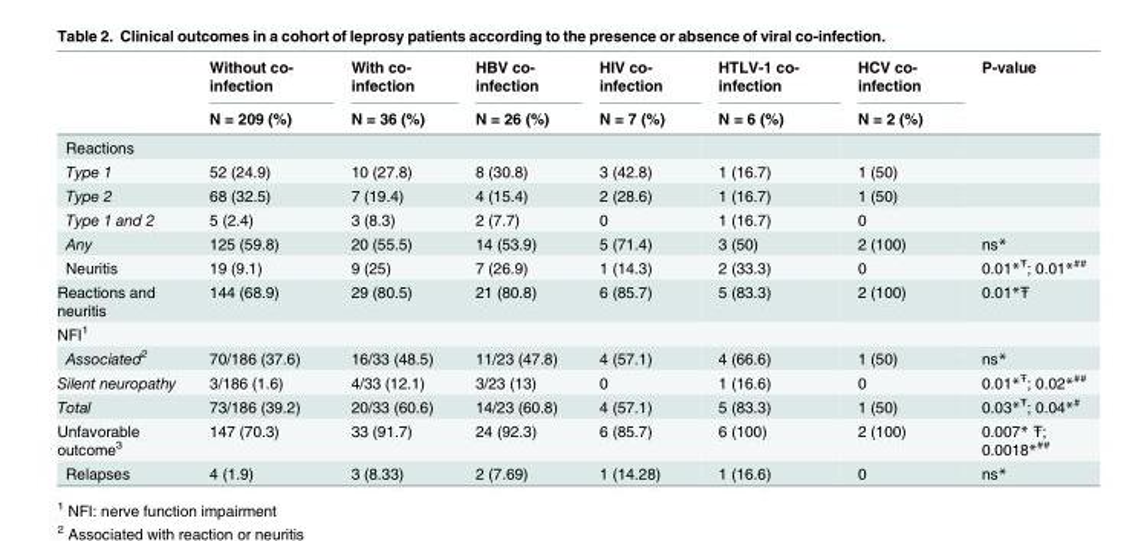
<table><thead><tr><td rowspan="2"></td><td rowspan="2">Without co- infection N = 209 (%)</td><td rowspan="2">With co- infection N = 36 (%)</td><td rowspan="2">HBV co- infection N = 26 (%)</td><td rowspan="2">HIV co- infection N = 7 (%)</td><td rowspan="2">HTLV-1 co- infection N = 6 (%)</td><td rowspan="2">HCV co- infection N = 2 (%)</td><td rowspan="2">P-value</td></tr><tr></tr></thead><tbody><tr><td colspan="8">Reactions</td></tr><tr><td>Type 1</td><td>52 (24.9)</td><td>10 (27.8)</td><td>8 (30.8)</td><td>3 (42.8)</td><td>1 (16.7)</td><td>1 (50)</td><td></td></tr><tr><td>Type 2</td><td>68 (32.5)</td><td>7 (19.4)</td><td>4 (15.4)</td><td>2 (28.6)</td><td>1 (16.7)</td><td>1 (50)</td><td></td></tr><tr><td>Type 1 and 2</td><td>5 (2.4)</td><td>3 (8.3)</td><td>2 (7.7)</td><td>0</td><td>1 (16.7)</td><td>0</td><td></td></tr><tr><td>Any</td><td>125 (59.8)</td><td>20 (55.5)</td><td>14 (53.9)</td><td>5 (71.4)</td><td>3 (50)</td><td>2 (100)</td><td>ns*</td></tr><tr><td>Neuritis</td><td>19 (9.1)</td><td>9 (25)</td><td>7 (26.9)</td><td>1 (14.3)</td><td>2 (33.3)</td><td>0</td><td>0.01*<sup>Ŧ</sup>; 0.01*<sup>##</sup></td></tr><tr><td>Reactions and neuritis</td><td>144 (68.9)</td><td>29 (80.5)</td><td>21 (80.8)</td><td>6 (85.7)</td><td>5 (83.3)</td><td>2 (100)</td><td>0.01*Ŧ</td></tr><tr><td colspan="8">NFI<sup>1</sup></td></tr><tr><td>Associated<sup>2</sup></td><td>70/186 (37.6)</td><td>16/33 (48.5)</td><td>11/23 (47.8)</td><td>4 (57.1)</td><td>4 (66.6)</td><td>1 (50)</td><td>ns*</td></tr><tr><td>Silent neuropathy</td><td>3/186 (1.6)</td><td>4/33 (12.1)</td><td>3/23 (13)</td><td>0</td><td>1 (16.6)</td><td>0</td><td>0.01*<sup>Ŧ</sup>; 0.02*<sup>##</sup></td></tr><tr><td>Total</td><td>73/186 (39.2)</td><td>20/33 (60.6)</td><td>14/23 (60.8)</td><td>4 (57.1)</td><td>5 (83.3)</td><td>1 (50)</td><td>0.03*<sup>Ŧ</sup>; 0.04*<sup>#</sup></td></tr><tr><td>Unfavorable outcome<sup>3</sup></td><td>147 (70.3)</td><td>33 (91.7)</td><td>24 (92.3)</td><td>6 (85.7)</td><td>6 (100)</td><td>2 (100)</td><td>0.007* Ŧ; 0.0018*<sup>##</sup></td></tr><tr><td>Relapses</td><td>4 (1.9)</td><td>3 (8.33)</td><td>2 (7.69)</td><td>1 (14.28)</td><td>1 (16.6)</td><td>0</td><td>ns*</td></tr></tbody></table>